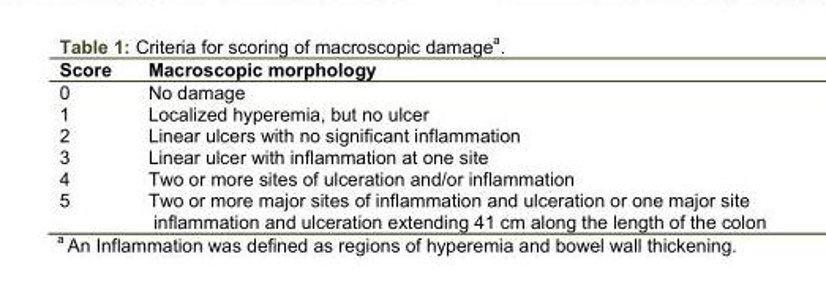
<table><thead><tr><td>Score</td><td>Macroscopic morphology</td></tr></thead><tbody><tr><td>0</td><td>No damage</td></tr><tr><td>1</td><td>Localized hyperemia, but no ulcer</td></tr><tr><td>2</td><td>Linear ulcers with no significant inflammation</td></tr><tr><td>3</td><td>Linear ulcer with inflammation at one site</td></tr><tr><td>4</td><td>Two or more sites of ulceration and/or inflammation</td></tr><tr><td>5</td><td>Two or more major sites of inflammation and ulceration or one major site inflammation and ulceration extending 41 cm along the length of the colon</td></tr></tbody></table>